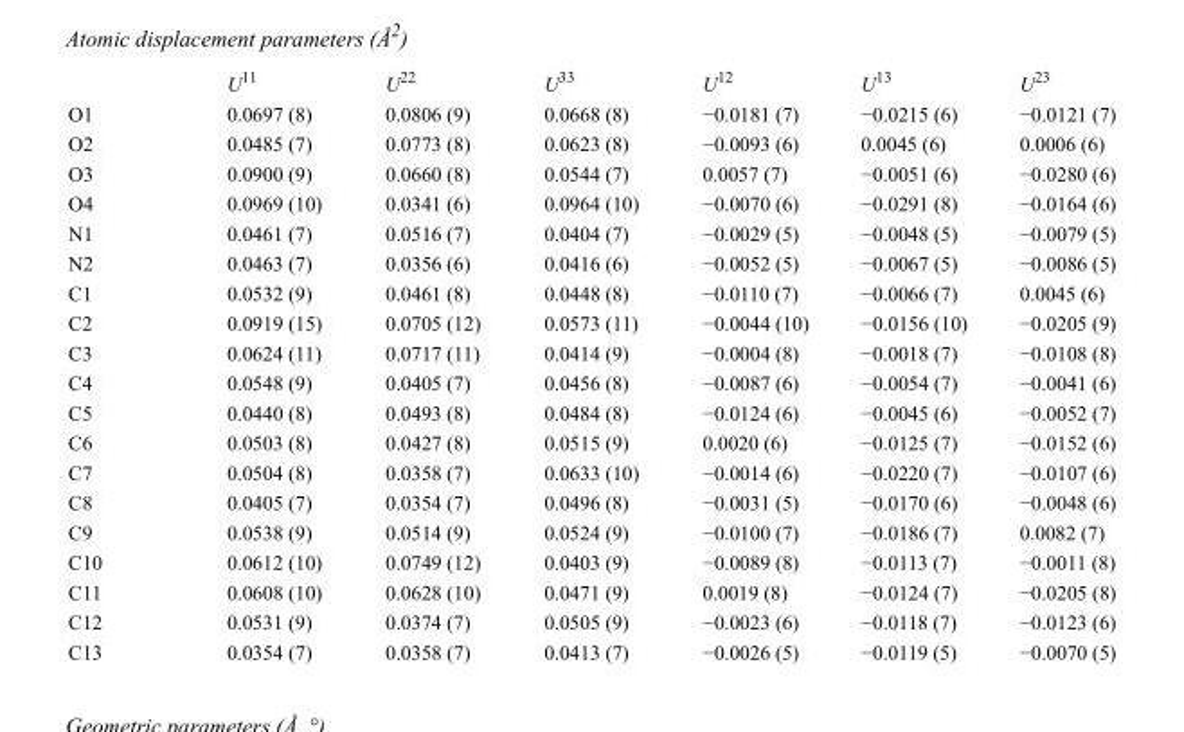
<table><thead><tr><td></td><td>U<sup>11</sup></td><td>U<sup>22</sup></td><td>U<sup>33</sup></td><td>U<sup>12</sup></td><td>U<sup>13</sup></td><td>U<sup>23</sup></td></tr></thead><tbody><tr><td>O1</td><td>0.0697 (8)</td><td>0.0806 (9)</td><td>0.0668 (8)</td><td>−0.0181 (7)</td><td>−0.0215 (6)</td><td>−0.0121 (7)</td></tr><tr><td>O2</td><td>0.0485 (7)</td><td>0.0773 (8)</td><td>0.0623 (8)</td><td>−0.0093 (6)</td><td>0.0045 (6)</td><td>0.0006 (6)</td></tr><tr><td>O3</td><td>0.0900 (9)</td><td>0.0660 (8)</td><td>0.0544 (7)</td><td>0.0057 (7)</td><td>−0.0051 (6)</td><td>−0.0280 (6)</td></tr><tr><td>O4</td><td>0.0969 (10)</td><td>0.0341 (6)</td><td>0.0964 (10)</td><td>−0.0070 (6)</td><td>−0.0291 (8)</td><td>−0.0164 (6)</td></tr><tr><td>N1</td><td>0.0461 (7)</td><td>0.0516 (7)</td><td>0.0404 (7)</td><td>−0.0029 (5)</td><td>−0.0048 (5)</td><td>−0.0079 (5)</td></tr><tr><td>N2</td><td>0.0463 (7)</td><td>0.0356 (6)</td><td>0.0416 (6)</td><td>−0.0052 (5)</td><td>−0.0067 (5)</td><td>−0.0086 (5)</td></tr><tr><td>C1</td><td>0.0532 (9)</td><td>0.0461 (8)</td><td>0.0448 (8)</td><td>−0.0110 (7)</td><td>−0.0066 (7)</td><td>0.0045 (6)</td></tr><tr><td>C2</td><td>0.0919 (15)</td><td>0.0705 (12)</td><td>0.0573 (11)</td><td>−0.0044 (10)</td><td>−0.0156 (10)</td><td>−0.0205 (9)</td></tr><tr><td>C3</td><td>0.0624 (11)</td><td>0.0717 (11)</td><td>0.0414 (9)</td><td>−0.0004 (8)</td><td>−0.0018 (7)</td><td>−0.0108 (8)</td></tr><tr><td>C4</td><td>0.0548 (9)</td><td>0.0405 (7)</td><td>0.0456 (8)</td><td>−0.0087 (6)</td><td>−0.0054 (7)</td><td>−0.0041 (6)</td></tr><tr><td>C5</td><td>0.0440 (8)</td><td>0.0493 (8)</td><td>0.0484 (8)</td><td>−0.0124 (6)</td><td>−0.0045 (6)</td><td>−0.0052 (7)</td></tr><tr><td>C6</td><td>0.0503 (8)</td><td>0.0427 (8)</td><td>0.0515 (9)</td><td>0.0020 (6)</td><td>−0.0125 (7)</td><td>−0.0152 (6)</td></tr><tr><td>C7</td><td>0.0504 (8)</td><td>0.0358 (7)</td><td>0.0633 (10)</td><td>−0.0014 (6)</td><td>−0.0220 (7)</td><td>−0.0107 (6)</td></tr><tr><td>C8</td><td>0.0405 (7)</td><td>0.0354 (7)</td><td>0.0496 (8)</td><td>−0.0031 (5)</td><td>−0.0170 (6)</td><td>−0.0048 (6)</td></tr><tr><td>C9</td><td>0.0538 (9)</td><td>0.0514 (9)</td><td>0.0524 (9)</td><td>−0.0100 (7)</td><td>−0.0186 (7)</td><td>0.0082 (7)</td></tr><tr><td>C10</td><td>0.0612 (10)</td><td>0.0749 (12)</td><td>0.0403 (9)</td><td>−0.0089 (8)</td><td>−0.0113 (7)</td><td>−0.0011 (8)</td></tr><tr><td>C11</td><td>0.0608 (10)</td><td>0.0628 (10)</td><td>0.0471 (9)</td><td>0.0019 (8)</td><td>−0.0124 (7)</td><td>−0.0205 (8)</td></tr><tr><td>C12</td><td>0.0531 (9)</td><td>0.0374 (7)</td><td>0.0505 (9)</td><td>−0.0023 (6)</td><td>−0.0118 (7)</td><td>−0.0123 (6)</td></tr><tr><td>C13</td><td>0.0354 (7)</td><td>0.0358 (7)</td><td>0.0413 (7)</td><td>−0.0026 (5)</td><td>−0.0119 (5)</td><td>−0.0070 (5)</td></tr></tbody></table>